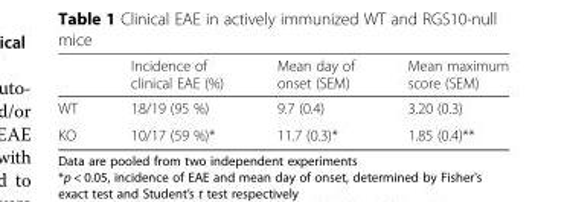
<table><thead><tr><td></td><td>Incidence of clinical EAE (%)</td><td>Mean day of onset (SEM)</td><td>Mean maximum score (SEM)</td></tr></thead><tbody><tr><td>WT</td><td>18/19 (95 %)</td><td>9.7 (0.4)</td><td>3.20 (0.3)</td></tr><tr><td>KO</td><td>10/17 (59 %)*</td><td>11.7 (0.3)*</td><td>1.85 (0.4)**</td></tr></tbody></table>